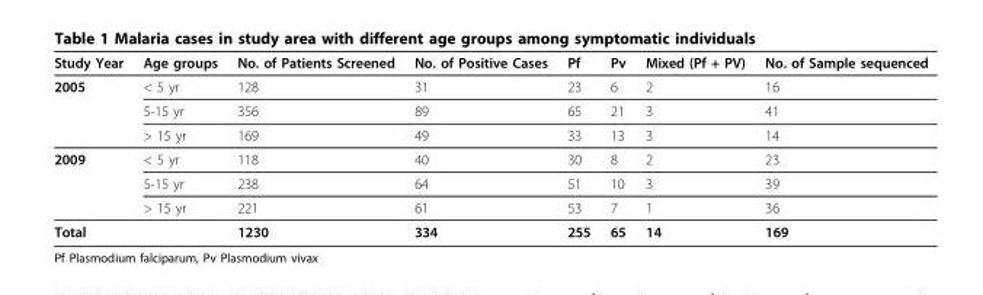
<table><thead><tr><td>Study Year</td><td>Age groups</td><td>No. of Patients Screened</td><td>No. of Positive Cases</td><td>Pf</td><td>Pv</td><td>Mixed (Pf + PV)</td><td>No. of Sample sequenced</td></tr></thead><tbody><tr><td rowspan="3">2005</td><td>&lt; 5 yr</td><td>128</td><td>31</td><td>23</td><td>6</td><td>2</td><td>16</td></tr><tr><td>5-15 yr</td><td>356</td><td>89</td><td>65</td><td>21</td><td>3</td><td>41</td></tr><tr><td>&gt; 15 yr</td><td>169</td><td>49</td><td>33</td><td>13</td><td>3</td><td>14</td></tr><tr><td rowspan="3">2009</td><td>&lt; 5 yr</td><td>118</td><td>40</td><td>30</td><td>8</td><td>2</td><td>23</td></tr><tr><td>5-15 yr</td><td>238</td><td>64</td><td>51</td><td>10</td><td>3</td><td>39</td></tr><tr><td>&gt; 15 yr</td><td>221</td><td>61</td><td>53</td><td>7</td><td>1</td><td>36</td></tr><tr><td>Total</td><td></td><td>1230</td><td>334</td><td>255</td><td>65</td><td>14</td><td>169</td></tr></tbody></table>